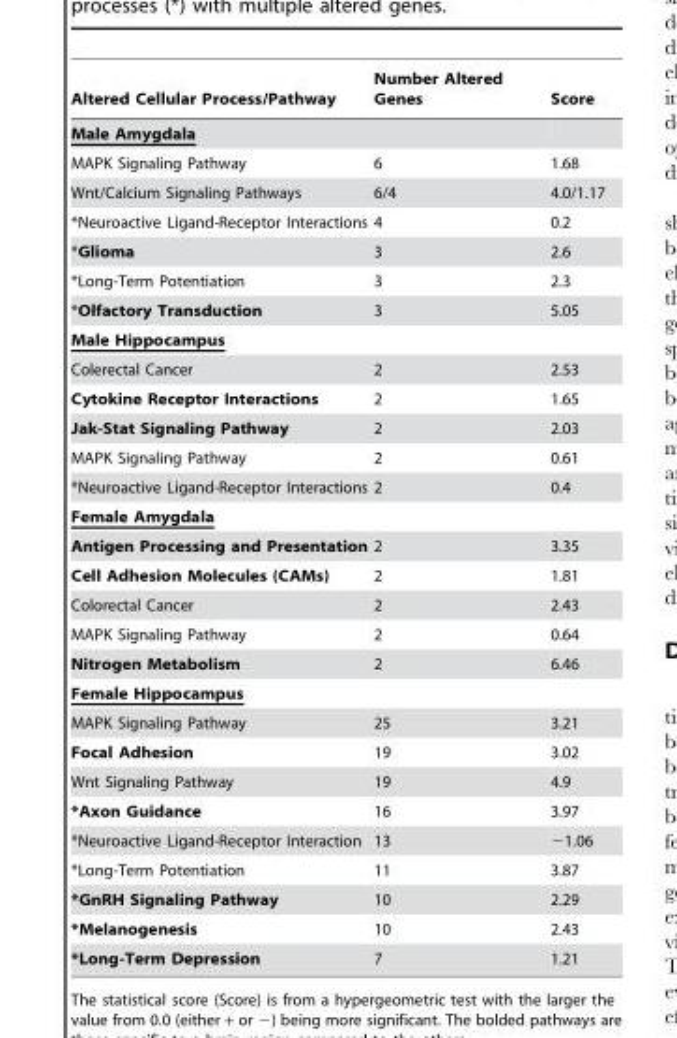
<table><thead><tr><td>Altered Cellular Process/Pathway</td><td>Number Altered Genes</td><td>Score</td></tr></thead><tbody><tr><td colspan="3">Male Amygdala</td></tr><tr><td>MAPK Signaling Pathway</td><td>6</td><td>1.68</td></tr><tr><td>Wnt/Calcium Signaling Pathways</td><td>6/4</td><td>4.0/1.17</td></tr><tr><td>*Neuroactive Ligand-Receptor Interactions</td><td>4</td><td>0.2</td></tr><tr><td>*Glioma</td><td>3</td><td>2.6</td></tr><tr><td>*Long-Term Potentiation</td><td>3</td><td>2.3</td></tr><tr><td>*Olfactory Transduction</td><td>3</td><td>5.05</td></tr><tr><td colspan="3">Male Hippocampus</td></tr><tr><td>Colerectal Cancer</td><td>2</td><td>2.53</td></tr><tr><td>Cytokine Receptor Interactions</td><td>2</td><td>1.65</td></tr><tr><td>Jak-Stat Signaling Pathway</td><td>2</td><td>2.03</td></tr><tr><td>MAPK Signaling Pathway</td><td>2</td><td>0.61</td></tr><tr><td>*Neuroactive Ligand-Receptor Interactions</td><td>2</td><td>0.4</td></tr><tr><td colspan="3">Female Amygdala</td></tr><tr><td>Antigen Processing and Presentation</td><td>2</td><td>3.35</td></tr><tr><td>Cell Adhesion Molecules (CAMs)</td><td>2</td><td>1.81</td></tr><tr><td>Colorectal Cancer</td><td>2</td><td>2.43</td></tr><tr><td>MAPK Signaling Pathway</td><td>2</td><td>0.64</td></tr><tr><td>Nitrogen Metabolism</td><td>2</td><td>6.46</td></tr><tr><td colspan="3">Female Hippocampus</td></tr><tr><td>MAPK Signaling Pathway</td><td>25</td><td>3.21</td></tr><tr><td>Focal Adhesion</td><td>19</td><td>3.02</td></tr><tr><td>Wnt Signaling Pathway</td><td>19</td><td>4.9</td></tr><tr><td>*Axon Guidance</td><td>16</td><td>3.97</td></tr><tr><td>*Neuroactive Ligand-Receptor Interaction</td><td>13</td><td>−1.06</td></tr><tr><td>*Long-Term Potentiation</td><td>11</td><td>3.87</td></tr><tr><td>*GnRH Signaling Pathway</td><td>10</td><td>2.29</td></tr><tr><td>*Melanogenesis</td><td>10</td><td>2.43</td></tr><tr><td>*Long-Term Depression</td><td>7</td><td>1.21</td></tr></tbody></table>